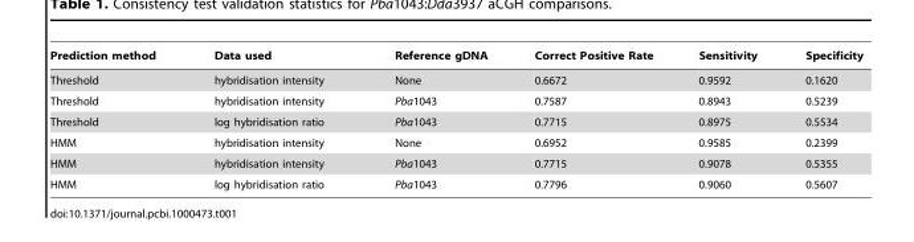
<table><thead><tr><td>Prediction method</td><td>Data used</td><td>Reference gDNA</td><td>Correct Positive Rate</td><td>Sensitivity</td><td>Specificity</td></tr></thead><tbody><tr><td>Threshold</td><td>hybridisation intensity</td><td>None</td><td>0.6672</td><td>0.9592</td><td>0.1620</td></tr><tr><td>Threshold</td><td>hybridisation intensity</td><td>Pba1043</td><td>0.7587</td><td>0.8943</td><td>0.5239</td></tr><tr><td>Threshold</td><td>log hybridisation ratio</td><td>Pba1043</td><td>0.7715</td><td>0.8975</td><td>0.5534</td></tr><tr><td>HMM</td><td>hybridisation intensity</td><td>None</td><td>0.6952</td><td>0.9585</td><td>0.2399</td></tr><tr><td>HMM</td><td>hybridisation intensity</td><td>Pba1043</td><td>0.7715</td><td>0.9078</td><td>0.5355</td></tr><tr><td>HMM</td><td>log hybridisation ratio</td><td>Pba1043</td><td>0.7796</td><td>0.9060</td><td>0.5607</td></tr></tbody></table>